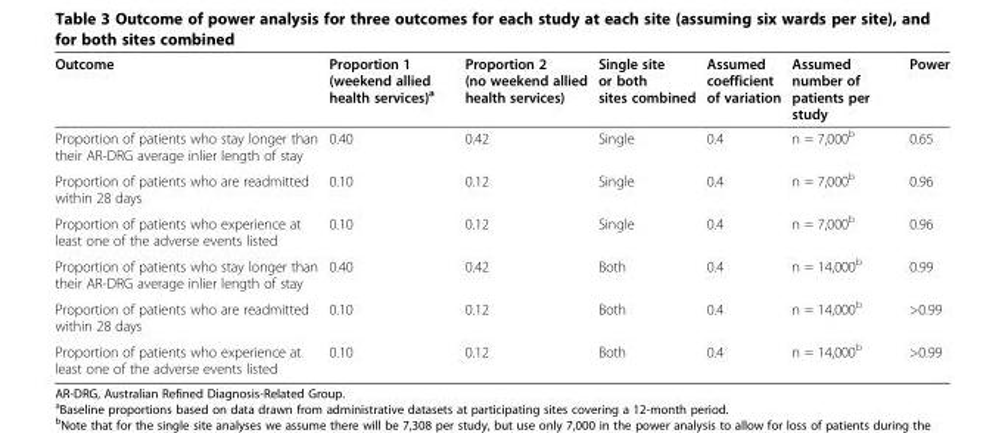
<table><thead><tr><td>Outcome</td><td>Proportion 1 (weekend allied health services)<sup>a</sup></td><td>Proportion 2 (no weekend allied health services)</td><td>Single site or both sites combined</td><td>Assumed coefficient of variation</td><td>Assumed number of patients per study</td><td>Power</td></tr></thead><tbody><tr><td>Proportion of patients who stay longer than their AR-DRG average inlier length of stay</td><td>0.40</td><td>0.42</td><td>Single</td><td>0.4</td><td>n = 7,000<sup>b</sup></td><td>0.65</td></tr><tr><td>Proportion of patients who are readmitted within 28 days</td><td>0.10</td><td>0.12</td><td>Single</td><td>0.4</td><td>n = 7,000<sup>b</sup></td><td>0.96</td></tr><tr><td>Proportion of patients who experience at least one of the adverse events listed</td><td>0.10</td><td>0.12</td><td>Single</td><td>0.4</td><td>n = 7,000<sup>b</sup></td><td>0.96</td></tr><tr><td>Proportion of patients who stay longer than their AR-DRG average inlier length of stay</td><td>0.40</td><td>0.42</td><td>Both</td><td>0.4</td><td>n = 14,000<sup>b</sup></td><td>0.99</td></tr><tr><td>Proportion of patients who are readmitted within 28 days</td><td>0.10</td><td>0.12</td><td>Both</td><td>0.4</td><td>n = 14,000<sup>b</sup></td><td>&gt;0.99</td></tr><tr><td>Proportion of patients who experience at least one of the adverse events listed</td><td>0.10</td><td>0.12</td><td>Both</td><td>0.4</td><td>n = 14,000<sup>b</sup></td><td>&gt;0.99</td></tr></tbody></table>